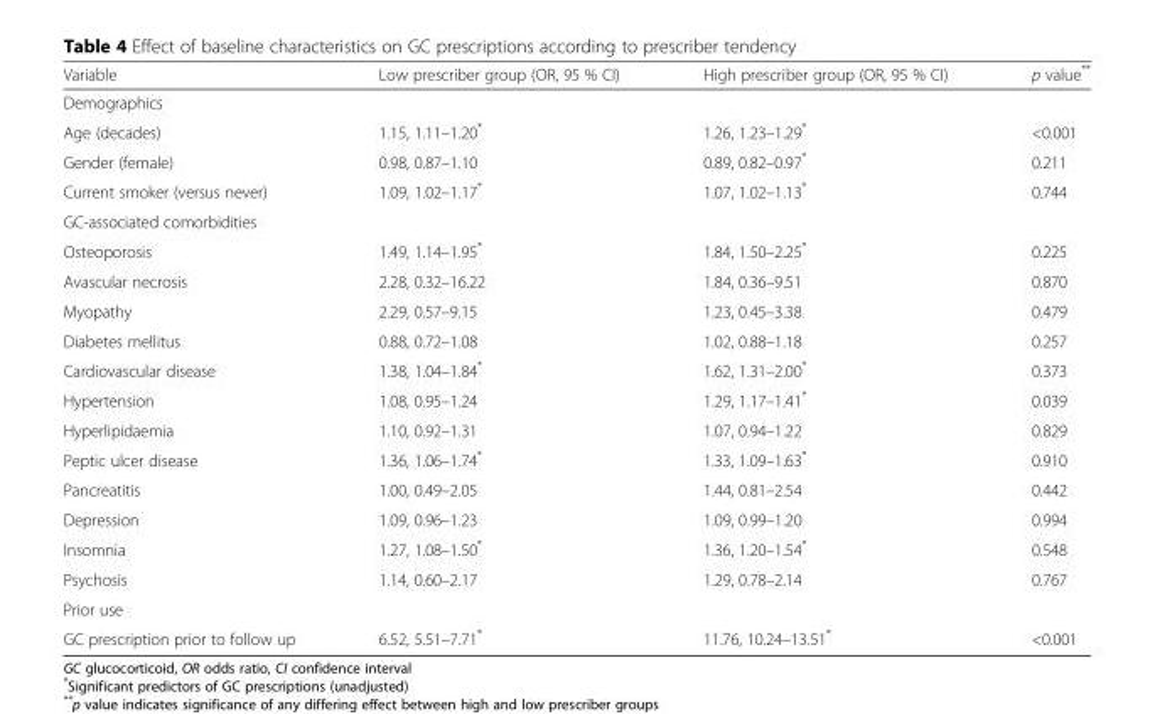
<table><thead><tr><td>Variable</td><td>Low prescriber group (OR, 95 % CI)</td><td>High prescriber group (OR, 95 % CI)</td><td>p value**</td></tr></thead><tbody><tr><td colspan="4">Demographics</td></tr><tr><td>Age (decades)</td><td>1.15, 1.11–1.20*</td><td>1.26, 1.23–1.29*</td><td>&lt;0.001</td></tr><tr><td>Gender (female)</td><td>0.98, 0.87–1.10</td><td>0.89, 0.82–0.97*</td><td>0.211</td></tr><tr><td>Current smoker (versus never)</td><td>1.09, 1.02–1.17*</td><td>1.07, 1.02–1.13*</td><td>0.744</td></tr><tr><td colspan="4">GC-associated comorbidities</td></tr><tr><td>Osteoporosis</td><td>1.49, 1.14–1.95*</td><td>1.84, 1.50–2.25*</td><td>0.225</td></tr><tr><td>Avascular necrosis</td><td>2.28, 0.32–16.22</td><td>1.84, 0.36–9.51</td><td>0.870</td></tr><tr><td>Myopathy</td><td>2.29, 0.57–9.15</td><td>1.23, 0.45–3.38</td><td>0.479</td></tr><tr><td>Diabetes mellitus</td><td>0.88, 0.72–1.08</td><td>1.02, 0.88–1.18</td><td>0.257</td></tr><tr><td>Cardiovascular disease</td><td>1.38, 1.04–1.84*</td><td>1.62, 1.31–2.00*</td><td>0.373</td></tr><tr><td>Hypertension</td><td>1.08, 0.95–1.24</td><td>1.29, 1.17–1.41*</td><td>0.039</td></tr><tr><td>Hyperlipidaemia</td><td>1.10, 0.92–1.31</td><td>1.07, 0.94–1.22</td><td>0.829</td></tr><tr><td>Peptic ulcer disease</td><td>1.36, 1.06–1.74*</td><td>1.33, 1.09–1.63*</td><td>0.910</td></tr><tr><td>Pancreatitis</td><td>1.00, 0.49–2.05</td><td>1.44, 0.81–2.54</td><td>0.442</td></tr><tr><td>Depression</td><td>1.09, 0.96–1.23</td><td>1.09, 0.99–1.20</td><td>0.994</td></tr><tr><td>Insomnia</td><td>1.27, 1.08–1.50*</td><td>1.36, 1.20–1.54*</td><td>0.548</td></tr><tr><td>Psychosis</td><td>1.14, 0.60–2.17</td><td>1.29, 0.78–2.14</td><td>0.767</td></tr><tr><td colspan="4">Prior use</td></tr><tr><td>GC prescription prior to follow up</td><td>6.52, 5.51–7.71*</td><td>11.76, 10.24–13.51*</td><td>&lt;0.001</td></tr></tbody></table>